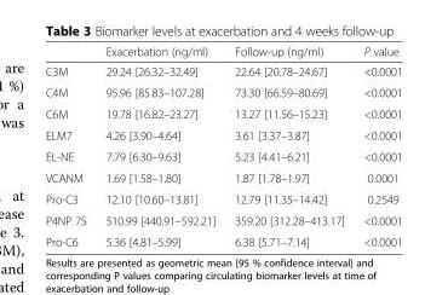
<table><thead><tr><td></td><td>Exacerbation (ng/ml)</td><td>Follow-up (ng/ml)</td><td>P value</td></tr></thead><tbody><tr><td>C3M</td><td>29.24 [26.32–32.49]</td><td>22.64 [20.78–24.67]</td><td>&lt;0.0001</td></tr><tr><td>C4M</td><td>95.96 [85.83–107.28]</td><td>73.30 [66.59–80.69]</td><td>&lt;0.0001</td></tr><tr><td>C6M</td><td>19.78 [16.82–23.27]</td><td>13.27 [11.56–15.23]</td><td>&lt;0.0001</td></tr><tr><td>ELM7</td><td>4.26 [3.90–4.64]</td><td>3.61 [3.37–3.87]</td><td>&lt;0.0001</td></tr><tr><td>EL-NE</td><td>7.79 [6.30–9.63]</td><td>5.23 [4.41–6.21]</td><td>&lt;0.0001</td></tr><tr><td>VCANM</td><td>1.69 [1.58–1.80]</td><td>1.87 [1.78–1.97]</td><td>0.0001</td></tr><tr><td>Pro-C3</td><td>12.10 [10.60–13.81]</td><td>12.79 [11.35–14.42]</td><td>0.2549</td></tr><tr><td>P4NP 7S</td><td>510.99 [440.91–592.21]</td><td>359.20 [312.28–413.17]</td><td>&lt;0.0001</td></tr><tr><td>Pro-C6</td><td>5.36 [4.81–5.99]</td><td>6.38 [5.71–7.14]</td><td>&lt;0.0001</td></tr></tbody></table>